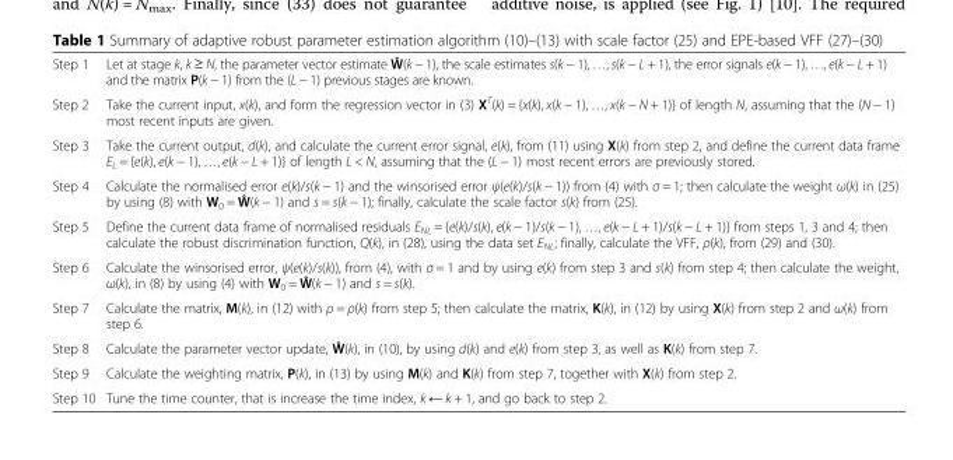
<table><tbody><tr><td>Step 1</td><td>Let at stage k, k ≥ N, the parameter vector estimate Ŵ(k − 1), the scale estimates s(k − 1), …, s(k − L + 1), the error signals e(k − 1), …, e(k − L + 1) and the matrix P(k − 1) from the (L − 1) previous stages are known.</td></tr><tr><td>Step 2</td><td>Take the current input, x(k), and form the regression vector in (3) X<sup>T</sup>(k) = {x(k), x(k − 1), …, x(k − N + 1)} of length N, assuming that the (N − 1) most recent inputs are given.</td></tr><tr><td>Step 3</td><td>Take the current output, d(k), and calculate the current error signal, e(k), from (11) using X(k) from step 2, and define the current data frame E<sub>L</sub> = {e(k), e(k − 1), …, e(k − L + 1)} of length L &lt; N, assuming that the (L − 1) most recent errors are previously stored.</td></tr><tr><td>Step 4</td><td>Calculate the normalised error e(k)/s(k − 1) and the winsorised error ψ(e(k)/s(k − 1)) from (4) with σ = 1; then calculate the weight ω(k) in (25) by using (8) with W<sub>0</sub> = Ŵ(k − 1) and s = s(k − 1); finally, calculate the scale factor s(k) from (25).</td></tr><tr><td>Step 5</td><td>Define the current data frame of normalised residuals E<sub>NL</sub> = {e(k)/s(k), e(k − 1)/s(k − 1), …, e(k − L + 1)/s(k − L + 1)} from steps 1, 3 and 4; then calculate the robust discrimination function, Q(k), in (28), using the data set E<sub>NL</sub>; finally, calculate the VFF, ρ(k), from (29) and (30).</td></tr><tr><td>Step 6</td><td>Calculate the winsorised error, ψ(e(k)/s(k)), from (4), with σ = 1 and by using e(k) from step 3 and s(k) from step 4; then calculate the weight, ω(k), in (8) by using (4) with W<sub>0</sub> = Ŵ(k − 1) and s = s(k).</td></tr><tr><td>Step 7</td><td>Calculate the matrix, M(k), in (12) with ρ = ρ(k) from step 5; then calculate the matrix, K(k), in (12) by using X(k) from step 2 and ω(k) from step 6.</td></tr><tr><td>Step 8</td><td>Calculate the parameter vector update, Ŵ(k), in (10), by using d(k) and e(k) from step 3, as well as K(k) from step 7.</td></tr><tr><td>Step 9</td><td>Calculate the weighting matrix, P(k), in (13) by using M(k) and K(k) from step 7, together with X(k) from step 2.</td></tr><tr><td>Step 10</td><td>Tune the time counter, that is increase the time index, k ← k + 1, and go back to step 2.</td></tr></tbody></table>